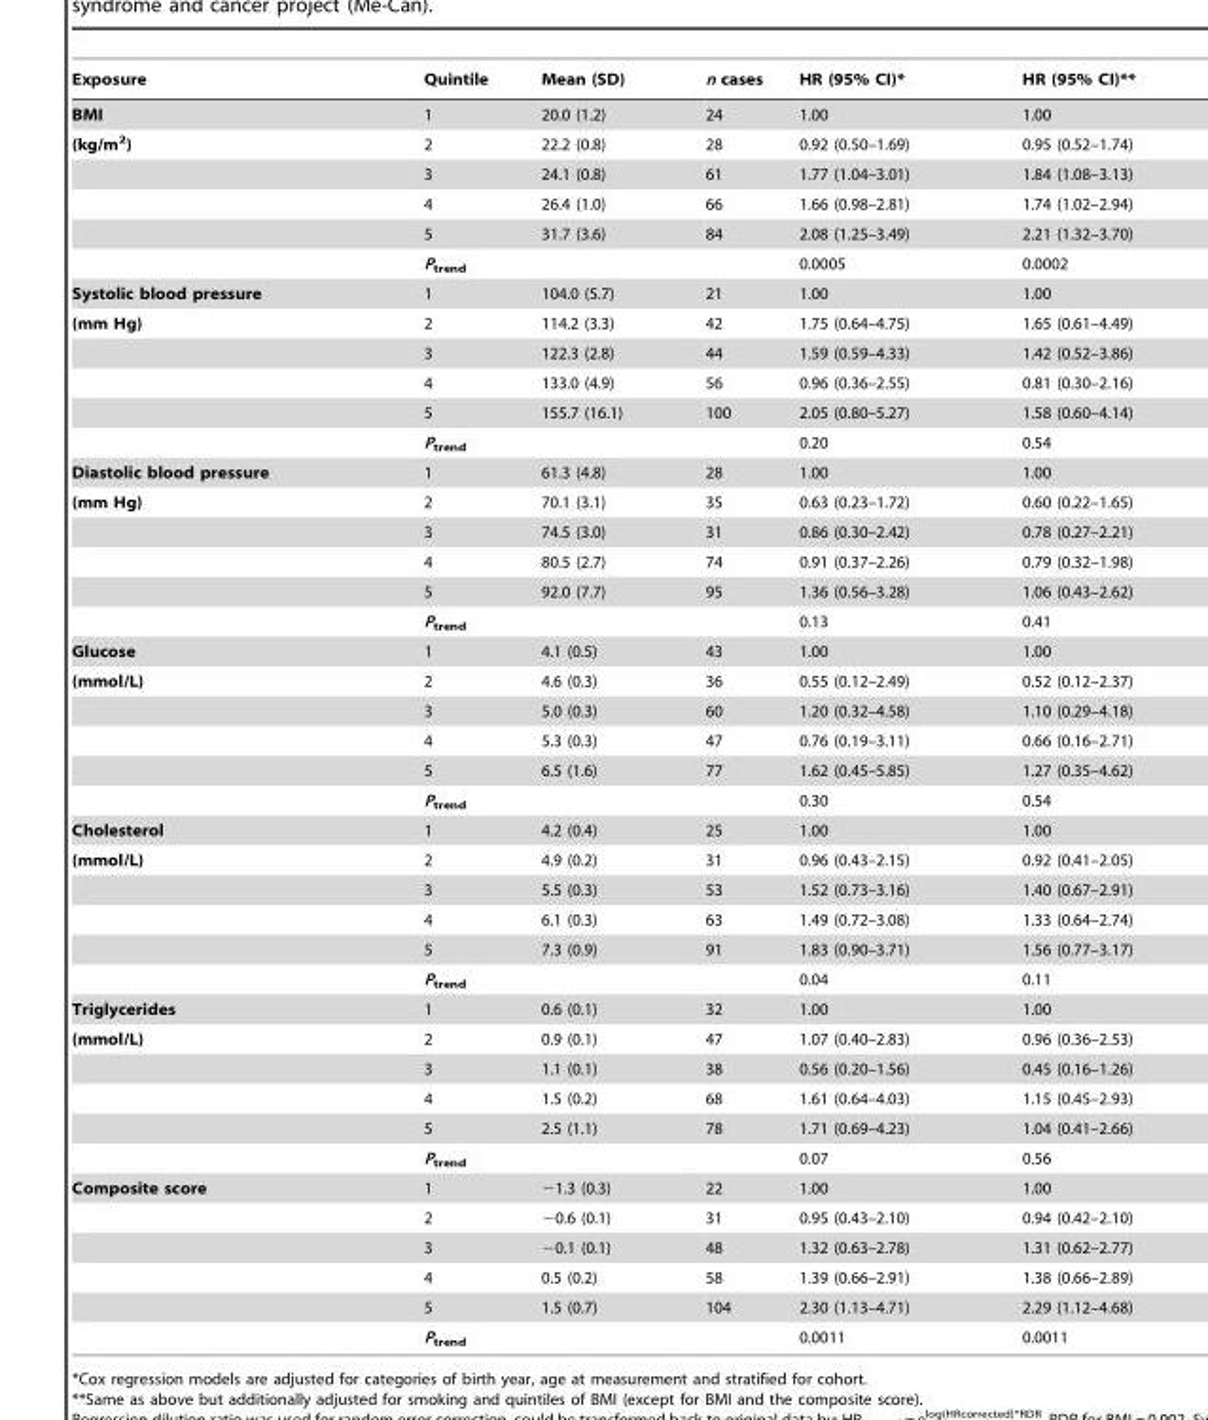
<table><thead><tr><td>Exposure</td><td>Quintile</td><td>Mean (SD)</td><td>n cases</td><td>HR (95% CI)*</td><td>HR (95% CI)**</td></tr></thead><tbody><tr><td>BMI</td><td>1</td><td>20.0 (1.2)</td><td>24</td><td>1.00</td><td>1.00</td></tr><tr><td rowspan="5">(kg/m<sup>2</sup>)</td><td>2</td><td>22.2 (0.8)</td><td>28</td><td>0.92 (0.50–1.69)</td><td>0.95 (0.52–1.74)</td></tr><tr><td>3</td><td>24.1 (0.8)</td><td>61</td><td>1.77 (1.04–3.01)</td><td>1.84 (1.08–3.13)</td></tr><tr><td>4</td><td>26.4 (1.0)</td><td>66</td><td>1.66 (0.98–2.81)</td><td>1.74 (1.02–2.94)</td></tr><tr><td>5</td><td>31.7 (3.6)</td><td>84</td><td>2.08 (1.25–3.49)</td><td>2.21 (1.32–3.70)</td></tr><tr><td>P<sub>trend</sub></td><td></td><td></td><td>0.0005</td><td>0.0002</td></tr><tr><td>Systolic blood pressure</td><td>1</td><td>104.0 (5.7)</td><td>21</td><td>1.00</td><td>1.00</td></tr><tr><td rowspan="5">(mm Hg)</td><td>2</td><td>114.2 (3.3)</td><td>42</td><td>1.75 (0.64–4.75)</td><td>1.65 (0.61–4.49)</td></tr><tr><td>3</td><td>122.3 (2.8)</td><td>44</td><td>1.59 (0.59–4.33)</td><td>1.42 (0.52–3.86)</td></tr><tr><td>4</td><td>133.0 (4.9)</td><td>56</td><td>0.96 (0.36–2.55)</td><td>0.81 (0.30–2.16)</td></tr><tr><td>5</td><td>155.7 (16.1)</td><td>100</td><td>2.05 (0.80–5.27)</td><td>1.58 (0.60–4.14)</td></tr><tr><td>P<sub>trend</sub></td><td></td><td></td><td>0.20</td><td>0.54</td></tr><tr><td>Diastolic blood pressure</td><td>1</td><td>61.3 (4.8)</td><td>28</td><td>1.00</td><td>1.00</td></tr><tr><td rowspan="5">(mm Hg)</td><td>2</td><td>70.1 (3.1)</td><td>35</td><td>0.63 (0.23–1.72)</td><td>0.60 (0.22–1.65)</td></tr><tr><td>3</td><td>74.5 (3.0)</td><td>31</td><td>0.86 (0.30–2.42)</td><td>0.78 (0.27–2.21)</td></tr><tr><td>4</td><td>80.5 (2.7)</td><td>74</td><td>0.91 (0.37–2.26)</td><td>0.79 (0.32–1.98)</td></tr><tr><td>5</td><td>92.0 (7.7)</td><td>95</td><td>1.36 (0.56–3.28)</td><td>1.06 (0.43–2.62)</td></tr><tr><td>P<sub>trend</sub></td><td></td><td></td><td>0.13</td><td>0.41</td></tr><tr><td>Glucose</td><td>1</td><td>4.1 (0.5)</td><td>43</td><td>1.00</td><td>1.00</td></tr><tr><td rowspan="5">(mmol/L)</td><td>2</td><td>4.6 (0.3)</td><td>36</td><td>0.55 (0.12–2.49)</td><td>0.52 (0.12–2.37)</td></tr><tr><td>3</td><td>5.0 (0.3)</td><td>60</td><td>1.20 (0.32–4.58)</td><td>1.10 (0.29–4.18)</td></tr><tr><td>4</td><td>5.3 (0.3)</td><td>47</td><td>0.76 (0.19–3.11)</td><td>0.66 (0.16–2.71)</td></tr><tr><td>5</td><td>6.5 (1.6)</td><td>77</td><td>1.62 (0.45–5.85)</td><td>1.27 (0.35–4.62)</td></tr><tr><td>P<sub>trend</sub></td><td></td><td></td><td>0.30</td><td>0.54</td></tr><tr><td>Cholesterol</td><td>1</td><td>4.2 (0.4)</td><td>25</td><td>1.00</td><td>1.00</td></tr><tr><td rowspan="5">(mmol/L)</td><td>2</td><td>4.9 (0.2)</td><td>31</td><td>0.96 (0.43–2.15)</td><td>0.92 (0.41–2.05)</td></tr><tr><td>3</td><td>5.5 (0.3)</td><td>53</td><td>1.52 (0.73–3.16)</td><td>1.40 (0.67–2.91)</td></tr><tr><td>4</td><td>6.1 (0.3)</td><td>63</td><td>1.49 (0.72–3.08)</td><td>1.33 (0.64–2.74)</td></tr><tr><td>5</td><td>7.3 (0.9)</td><td>91</td><td>1.83 (0.90–3.71)</td><td>1.56 (0.77–3.17)</td></tr><tr><td>P<sub>trend</sub></td><td></td><td></td><td>0.04</td><td>0.11</td></tr><tr><td>Triglycerides</td><td>1</td><td>0.6 (0.1)</td><td>32</td><td>1.00</td><td>1.00</td></tr><tr><td rowspan="5">(mmol/L)</td><td>2</td><td>0.9 (0.1)</td><td>47</td><td>1.07 (0.40–2.83)</td><td>0.96 (0.36–2.53)</td></tr><tr><td>3</td><td>1.1 (0.1)</td><td>38</td><td>0.56 (0.20–1.56)</td><td>0.45 (0.16–1.26)</td></tr><tr><td>4</td><td>1.5 (0.2)</td><td>68</td><td>1.61 (0.64–4.03)</td><td>1.15 (0.45–2.93)</td></tr><tr><td>5</td><td>2.5 (1.1)</td><td>78</td><td>1.71 (0.69–4.23)</td><td>1.04 (0.41–2.66)</td></tr><tr><td>P<sub>trend</sub></td><td></td><td></td><td>0.07</td><td>0.56</td></tr><tr><td rowspan="6">Composite score</td><td>1</td><td>−1.3 (0.3)</td><td>22</td><td>1.00</td><td>1.00</td></tr><tr><td>2</td><td>−0.6 (0.1)</td><td>31</td><td>0.95 (0.43–2.10)</td><td>0.94 (0.42–2.10)</td></tr><tr><td>3</td><td>−0.1 (0.1)</td><td>48</td><td>1.32 (0.63–2.78)</td><td>1.31 (0.62–2.77)</td></tr><tr><td>4</td><td>0.5 (0.2)</td><td>58</td><td>1.39 (0.66–2.91)</td><td>1.38 (0.66–2.89)</td></tr><tr><td>5</td><td>1.5 (0.7)</td><td>104</td><td>2.30 (1.13–4.71)</td><td>2.29 (1.12–4.68)</td></tr><tr><td>P<sub>trend</sub></td><td></td><td></td><td>0.0011</td><td>0.0011</td></tr></tbody></table>